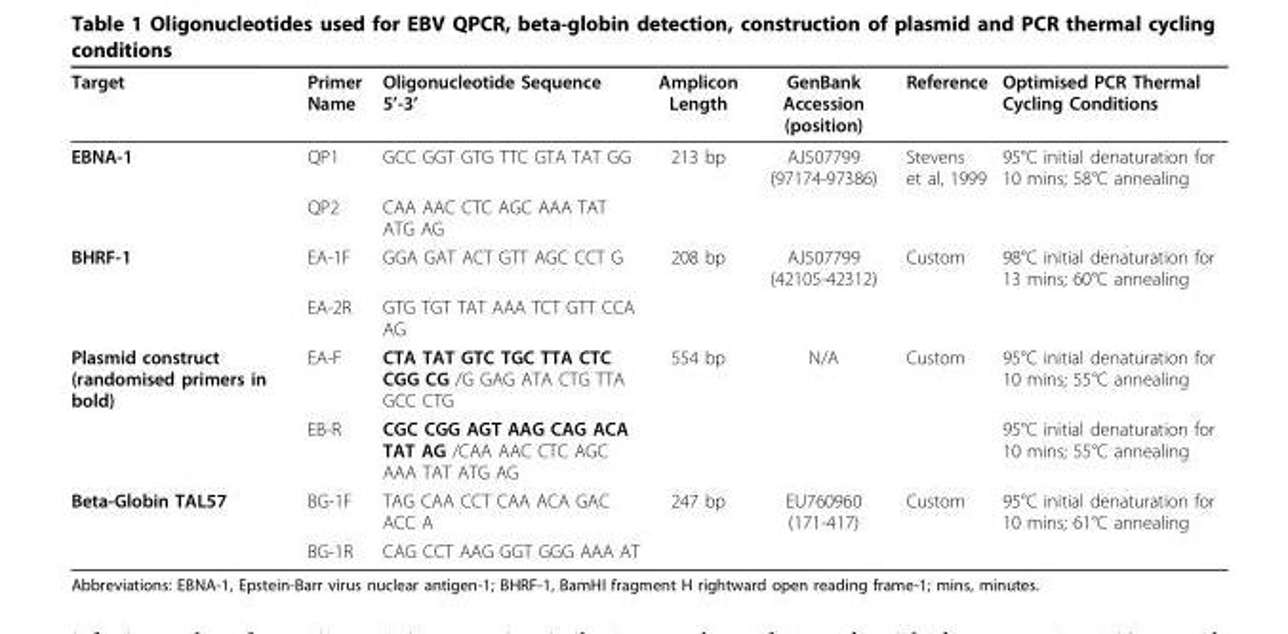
<table><thead><tr><td>Target</td><td>Primer Name</td><td>Oligonucleotide Sequence 5’-3’</td><td>Amplicon Length</td><td>GenBank Accession (position)</td><td>Reference</td><td>Optimised PCR Thermal Cycling Conditions</td></tr></thead><tbody><tr><td rowspan="2">EBNA-1</td><td>QP1</td><td>GCC GGT GTG TTC GTA TAT GG</td><td>213 bp</td><td>AJ507799 (97174-97386)</td><td>Stevens et al, 1999</td><td>95°C initial denaturation for 10 mins; 58°C annealing</td></tr><tr><td>QP2</td><td>CAA AAC CTC AGC AAA TAT ATG AG</td><td></td><td></td><td></td><td></td></tr><tr><td rowspan="2">BHRF-1</td><td>EA-1F</td><td>GGA GAT ACT GTT AGC CCT G</td><td>208 bp</td><td>AJ507799 (42105-42312)</td><td>Custom</td><td>98°C initial denaturation for 13 mins; 60°C annealing</td></tr><tr><td>EA-2R</td><td>GTG TGT TAT AAA TCT GTT CCA AG</td><td></td><td></td><td></td><td></td></tr><tr><td rowspan="2">Plasmid construct (randomised primers in bold)</td><td>EA-F</td><td>CTA TAT GTC TGC TTA CTC CGG CG /G GAG ATA CTG TTA GCC CTG</td><td>554 bp</td><td>N/A</td><td>Custom</td><td>95°C initial denaturation for 10 mins; 55°C annealing</td></tr><tr><td>EB-R</td><td>CGC CGG AGT AAG CAG ACA TAT AG /CAA AAC CTC AGC AAA TAT ATG AG</td><td></td><td></td><td></td><td>95°C initial denaturation for 10 mins; 55°C annealing</td></tr><tr><td rowspan="2">Beta-Globin TAL57</td><td>BG-1F</td><td>TAG CAA CCT CAA ACA GAC ACC A</td><td>247 bp</td><td>EU760960 (171-417)</td><td>Custom</td><td>95°C initial denaturation for 10 mins; 61°C annealing</td></tr><tr><td>BG-1R</td><td>CAG CCT AAG GGT GGG AAA AT</td><td></td><td></td><td></td><td></td></tr></tbody></table>